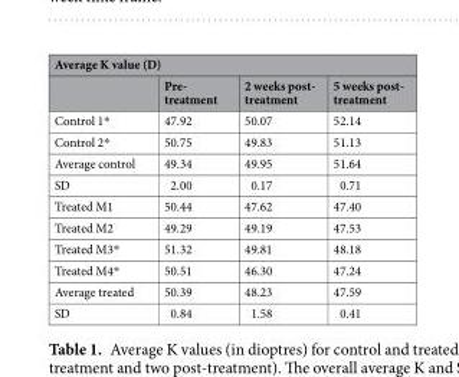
<table><thead><tr><td colspan="4">Average K value (D)</td></tr><tr><td></td><td>Pre- treatment</td><td>2 weeks post- treatment</td><td>5 weeks post- treatment</td></tr></thead><tbody><tr><td>Control 1*</td><td>47.92</td><td>50.07</td><td>52.14</td></tr><tr><td>Control 2*</td><td>50.75</td><td>49.83</td><td>51.13</td></tr><tr><td>Average control</td><td>49.34</td><td>49.95</td><td>51.64</td></tr><tr><td>SD</td><td>2.00</td><td>0.17</td><td>0.71</td></tr><tr><td>Treated M1</td><td>50.44</td><td>47.62</td><td>47.40</td></tr><tr><td>Treated M2</td><td>49.29</td><td>49.19</td><td>47.53</td></tr><tr><td>Treated M3*</td><td>51.32</td><td>49.81</td><td>48.18</td></tr><tr><td>Treated M4*</td><td>50.51</td><td>46.30</td><td>47.24</td></tr><tr><td>Average treated</td><td>50.39</td><td>48.23</td><td>47.59</td></tr><tr><td>SD</td><td>0.84</td><td>1.58</td><td>0.41</td></tr></tbody></table>